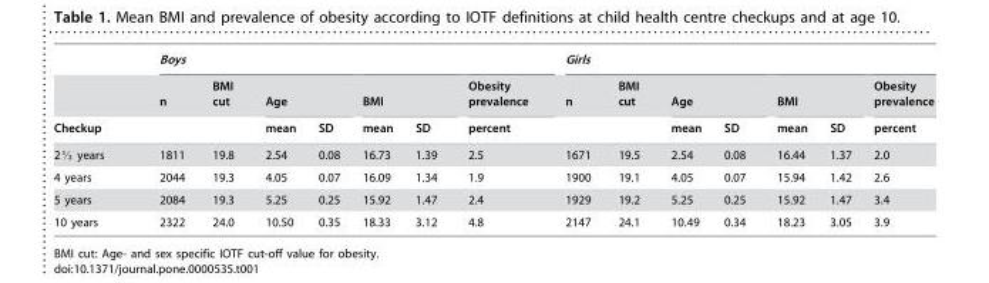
<table><thead><tr><td rowspan="3">Checkup</td><td colspan="7">Boys</td><td colspan="7">Girls</td></tr><tr><td rowspan="2">n</td><td rowspan="2">BMI cut</td><td colspan="2">Age</td><td colspan="2">BMI</td><td rowspan="2">Obesity prevalence percent</td><td rowspan="2">n</td><td rowspan="2">BMI cut</td><td colspan="2">Age</td><td colspan="2">BMI</td><td rowspan="2">Obesity prevalence percent</td></tr><tr><td>mean</td><td>SD</td><td>mean</td><td>SD</td><td>mean</td><td>SD</td><td>mean</td><td>SD</td></tr></thead><tbody><tr><td>2K years</td><td>1811</td><td>19.8</td><td>2.54</td><td>0.08</td><td>16.73</td><td>1.39</td><td>2.5</td><td>1671</td><td>19.5</td><td>2.54</td><td>0.08</td><td>16.44</td><td>1.37</td><td>2.0</td></tr><tr><td>4 years</td><td>2044</td><td>19.3</td><td>4.05</td><td>0.07</td><td>16.09</td><td>1.34</td><td>1.9</td><td>1900</td><td>19.1</td><td>4.05</td><td>0.07</td><td>15.94</td><td>1.42</td><td>2.6</td></tr><tr><td>5 years</td><td>2084</td><td>19.3</td><td>5.25</td><td>0.25</td><td>15.92</td><td>1.47</td><td>2.4</td><td>1929</td><td>19.2</td><td>5.25</td><td>0.25</td><td>15.92</td><td>1.47</td><td>3.4</td></tr><tr><td>10 years</td><td>2322</td><td>24.0</td><td>10.50</td><td>0.35</td><td>18.33</td><td>3.12</td><td>4.8</td><td>2147</td><td>24.1</td><td>10.49</td><td>0.34</td><td>18.23</td><td>3.05</td><td>3.9</td></tr></tbody></table>